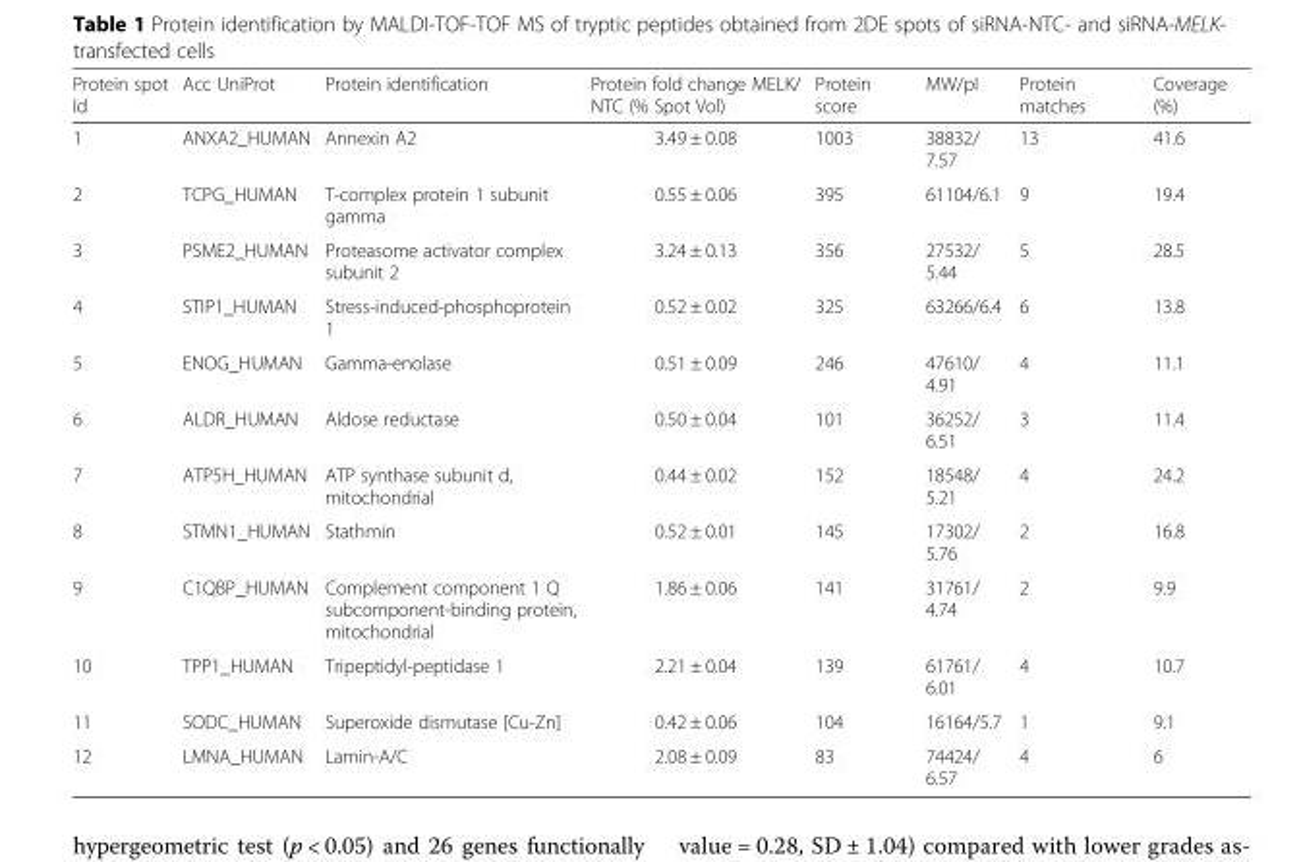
<table><thead><tr><td>Protein spot Id</td><td>Acc UniProt</td><td>Protein identification</td><td>Protein fold change MELK/ NTC (% Spot Vol)</td><td>Protein score</td><td>MW/pI</td><td>Protein matches</td><td>Coverage (%)</td></tr></thead><tbody><tr><td>1</td><td>ANXA2_HUMAN</td><td>Annexin A2</td><td>3.49 ± 0.08</td><td>1003</td><td>38832/ 7.57</td><td>13</td><td>41.6</td></tr><tr><td>2</td><td>TCPG_HUMAN</td><td>T-complex protein 1 subunit gamma</td><td>0.55 ± 0.06</td><td>395</td><td>61104/6.1</td><td>9</td><td>19.4</td></tr><tr><td>3</td><td>PSME2_HUMAN</td><td>Proteasome activator complex subunit 2</td><td>3.24 ± 0.13</td><td>356</td><td>27532/ 5.44</td><td>5</td><td>28.5</td></tr><tr><td>4</td><td>STIP1_HUMAN</td><td>Stress-induced-phosphoprotein 1</td><td>0.52 ± 0.02</td><td>325</td><td>63266/6.4</td><td>6</td><td>13.8</td></tr><tr><td>5</td><td>ENOG_HUMAN</td><td>Gamma-enolase</td><td>0.51 ± 0.09</td><td>246</td><td>47610/ 4.91</td><td>4</td><td>11.1</td></tr><tr><td>6</td><td>ALDR_HUMAN</td><td>Aldose reductase</td><td>0.50 ± 0.04</td><td>101</td><td>36252/ 6.51</td><td>3</td><td>11.4</td></tr><tr><td>7</td><td>ATP5H_HUMAN</td><td>ATP synthase subunit d, mitochondrial</td><td>0.44 ± 0.02</td><td>152</td><td>18548/ 5.21</td><td>4</td><td>24.2</td></tr><tr><td>8</td><td>STMN1_HUMAN</td><td>Stathmin</td><td>0.52 ± 0.01</td><td>145</td><td>17302/ 5.76</td><td>2</td><td>16.8</td></tr><tr><td>9</td><td>C1QBP_HUMAN</td><td>Complement component 1 Q subcomponent-binding protein, mitochondrial</td><td>1.86 ± 0.06</td><td>141</td><td>31761/ 4.74</td><td>2</td><td>9.9</td></tr><tr><td>10</td><td>TPP1_HUMAN</td><td>Tripeptidyl-peptidase 1</td><td>2.21 ± 0.04</td><td>139</td><td>61761/ 6.01</td><td>4</td><td>10.7</td></tr><tr><td>11</td><td>SODC_HUMAN</td><td>Superoxide dismutase [Cu-Zn]</td><td>0.42 ± 0.06</td><td>104</td><td>16164/5.7</td><td>1</td><td>9.1</td></tr><tr><td>12</td><td>LMNA_HUMAN</td><td>Lamin-A/C</td><td>2.08 ± 0.09</td><td>83</td><td>74424/ 6.57</td><td>4</td><td>6</td></tr></tbody></table>